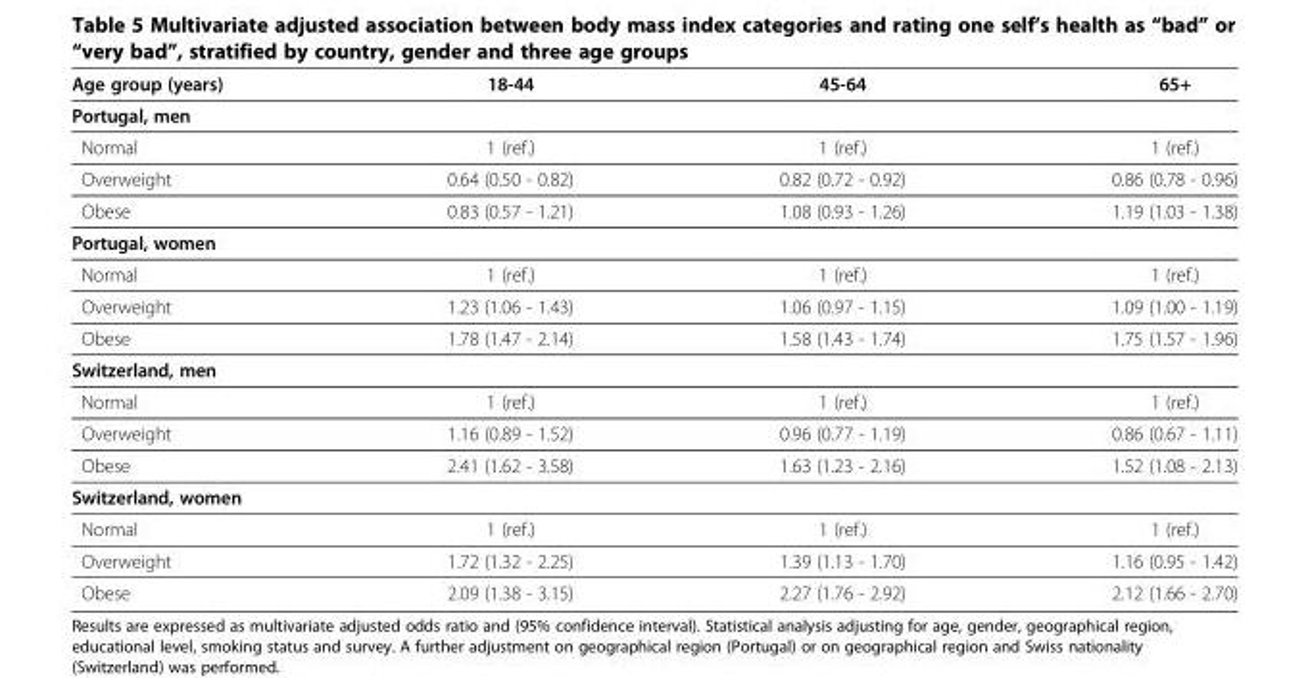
<table><thead><tr><td>Age group (years)</td><td>18-44</td><td>45-64</td><td>65+</td></tr></thead><tbody><tr><td colspan="4">Portugal, men</td></tr><tr><td>Normal</td><td>1 (ref.)</td><td>1 (ref.)</td><td>1 (ref.)</td></tr><tr><td>Overweight</td><td>0.64 (0.50 - 0.82)</td><td>0.82 (0.72 - 0.92)</td><td>0.86 (0.78 - 0.96)</td></tr><tr><td>Obese</td><td>0.83 (0.57 - 1.21)</td><td>1.08 (0.93 - 1.26)</td><td>1.19 (1.03 - 1.38)</td></tr><tr><td colspan="4">Portugal, women</td></tr><tr><td>Normal</td><td>1 (ref.)</td><td>1 (ref.)</td><td>1 (ref.)</td></tr><tr><td>Overweight</td><td>1.23 (1.06 - 1.43)</td><td>1.06 (0.97 - 1.15)</td><td>1.09 (1.00 - 1.19)</td></tr><tr><td>Obese</td><td>1.78 (1.47 - 2.14)</td><td>1.58 (1.43 - 1.74)</td><td>1.75 (1.57 - 1.96)</td></tr><tr><td colspan="4">Switzerland, men</td></tr><tr><td>Normal</td><td>1 (ref.)</td><td>1 (ref.)</td><td>1 (ref.)</td></tr><tr><td>Overweight</td><td>1.16 (0.89 - 1.52)</td><td>0.96 (0.77 - 1.19)</td><td>0.86 (0.67 - 1.11)</td></tr><tr><td>Obese</td><td>2.41 (1.62 - 3.58)</td><td>1.63 (1.23 - 2.16)</td><td>1.52 (1.08 - 2.13)</td></tr><tr><td colspan="4">Switzerland, women</td></tr><tr><td>Normal</td><td>1 (ref.)</td><td>1 (ref.)</td><td>1 (ref.)</td></tr><tr><td>Overweight</td><td>1.72 (1.32 - 2.25)</td><td>1.39 (1.13 - 1.70)</td><td>1.16 (0.95 - 1.42)</td></tr><tr><td>Obese</td><td>2.09 (1.38 - 3.15)</td><td>2.27 (1.76 - 2.92)</td><td>2.12 (1.66 - 2.70)</td></tr></tbody></table>